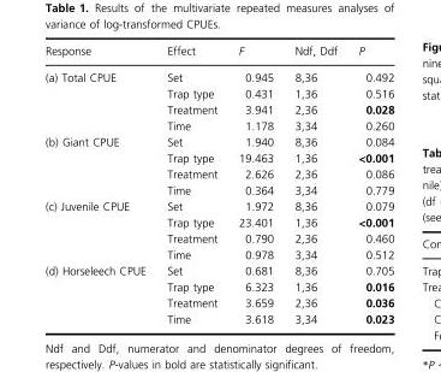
<table><thead><tr><td>Response</td><td>Effect</td><td>F</td><td>Ndf, Ddf</td><td>P</td></tr></thead><tbody><tr><td rowspan="4">(a) Total CPUE</td><td>Set</td><td>0.945</td><td>8,36</td><td>0.492</td></tr><tr><td>Trap type</td><td>0.431</td><td>1,36</td><td>0.516</td></tr><tr><td>Treatment</td><td>3.941</td><td>2,36</td><td>0.028</td></tr><tr><td>Time</td><td>1.178</td><td>3,34</td><td>0.260</td></tr><tr><td rowspan="4">(b) Giant CPUE</td><td>Set</td><td>1.940</td><td>8,36</td><td>0.084</td></tr><tr><td>Trap type</td><td>19.463</td><td>1,36</td><td>&lt;0.001</td></tr><tr><td>Treatment</td><td>2.626</td><td>2,36</td><td>0.086</td></tr><tr><td>Time</td><td>0.364</td><td>3,34</td><td>0.779</td></tr><tr><td rowspan="4">(c) Juvenile CPUE</td><td>Set</td><td>1.972</td><td>8,36</td><td>0.079</td></tr><tr><td>Trap type</td><td>23.401</td><td>1,36</td><td>&lt;0.001</td></tr><tr><td>Treatment</td><td>0.790</td><td>2,36</td><td>0.460</td></tr><tr><td>Time</td><td>0.978</td><td>3,34</td><td>0.512</td></tr><tr><td rowspan="4">(d) Horseleech CPUE</td><td>Set</td><td>0.681</td><td>8,36</td><td>0.705</td></tr><tr><td>Trap type</td><td>6.323</td><td>1,36</td><td>0.016</td></tr><tr><td>Treatment</td><td>3.659</td><td>2,36</td><td>0.036</td></tr><tr><td>Time</td><td>3.618</td><td>3,34</td><td>0.023</td></tr></tbody></table>